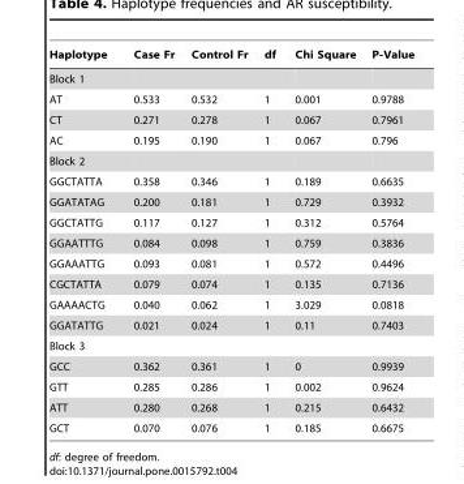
<table><thead><tr><td>Haplotype</td><td>Case Fr</td><td>Control Fr</td><td>df</td><td>Chi Square</td><td>P-Value</td></tr></thead><tbody><tr><td colspan="6">Block 1</td></tr><tr><td>AT</td><td>0.533</td><td>0.532</td><td>1</td><td>0.001</td><td>0.9788</td></tr><tr><td>CT</td><td>0.271</td><td>0.278</td><td>1</td><td>0.067</td><td>0.7961</td></tr><tr><td>AC</td><td>0.195</td><td>0.190</td><td>1</td><td>0.067</td><td>0.796</td></tr><tr><td colspan="6">Block 2</td></tr><tr><td>GGCTATTA</td><td>0.358</td><td>0.346</td><td>1</td><td>0.189</td><td>0.6635</td></tr><tr><td>GGATATAG</td><td>0.200</td><td>0.181</td><td>1</td><td>0.729</td><td>0.3932</td></tr><tr><td>GGCTATTG</td><td>0.117</td><td>0.127</td><td>1</td><td>0.312</td><td>0.5764</td></tr><tr><td>GGAATTTG</td><td>0.084</td><td>0.098</td><td>1</td><td>0.759</td><td>0.3836</td></tr><tr><td>GGAAATTG</td><td>0.093</td><td>0.081</td><td>1</td><td>0.572</td><td>0.4496</td></tr><tr><td>CGCTATTA</td><td>0.079</td><td>0.074</td><td>1</td><td>0.135</td><td>0.7136</td></tr><tr><td>GAAAACTG</td><td>0.040</td><td>0.062</td><td>1</td><td>3.029</td><td>0.0818</td></tr><tr><td>GGATATTG</td><td>0.021</td><td>0.024</td><td>1</td><td>0.11</td><td>0.7403</td></tr><tr><td colspan="6">Block 3</td></tr><tr><td>GCC</td><td>0.362</td><td>0.361</td><td>1</td><td>0</td><td>0.9939</td></tr><tr><td>GTT</td><td>0.285</td><td>0.286</td><td>1</td><td>0.002</td><td>0.9624</td></tr><tr><td>ATT</td><td>0.280</td><td>0.268</td><td>1</td><td>0.215</td><td>0.6432</td></tr><tr><td>GCT</td><td>0.070</td><td>0.076</td><td>1</td><td>0.185</td><td>0.6675</td></tr></tbody></table>